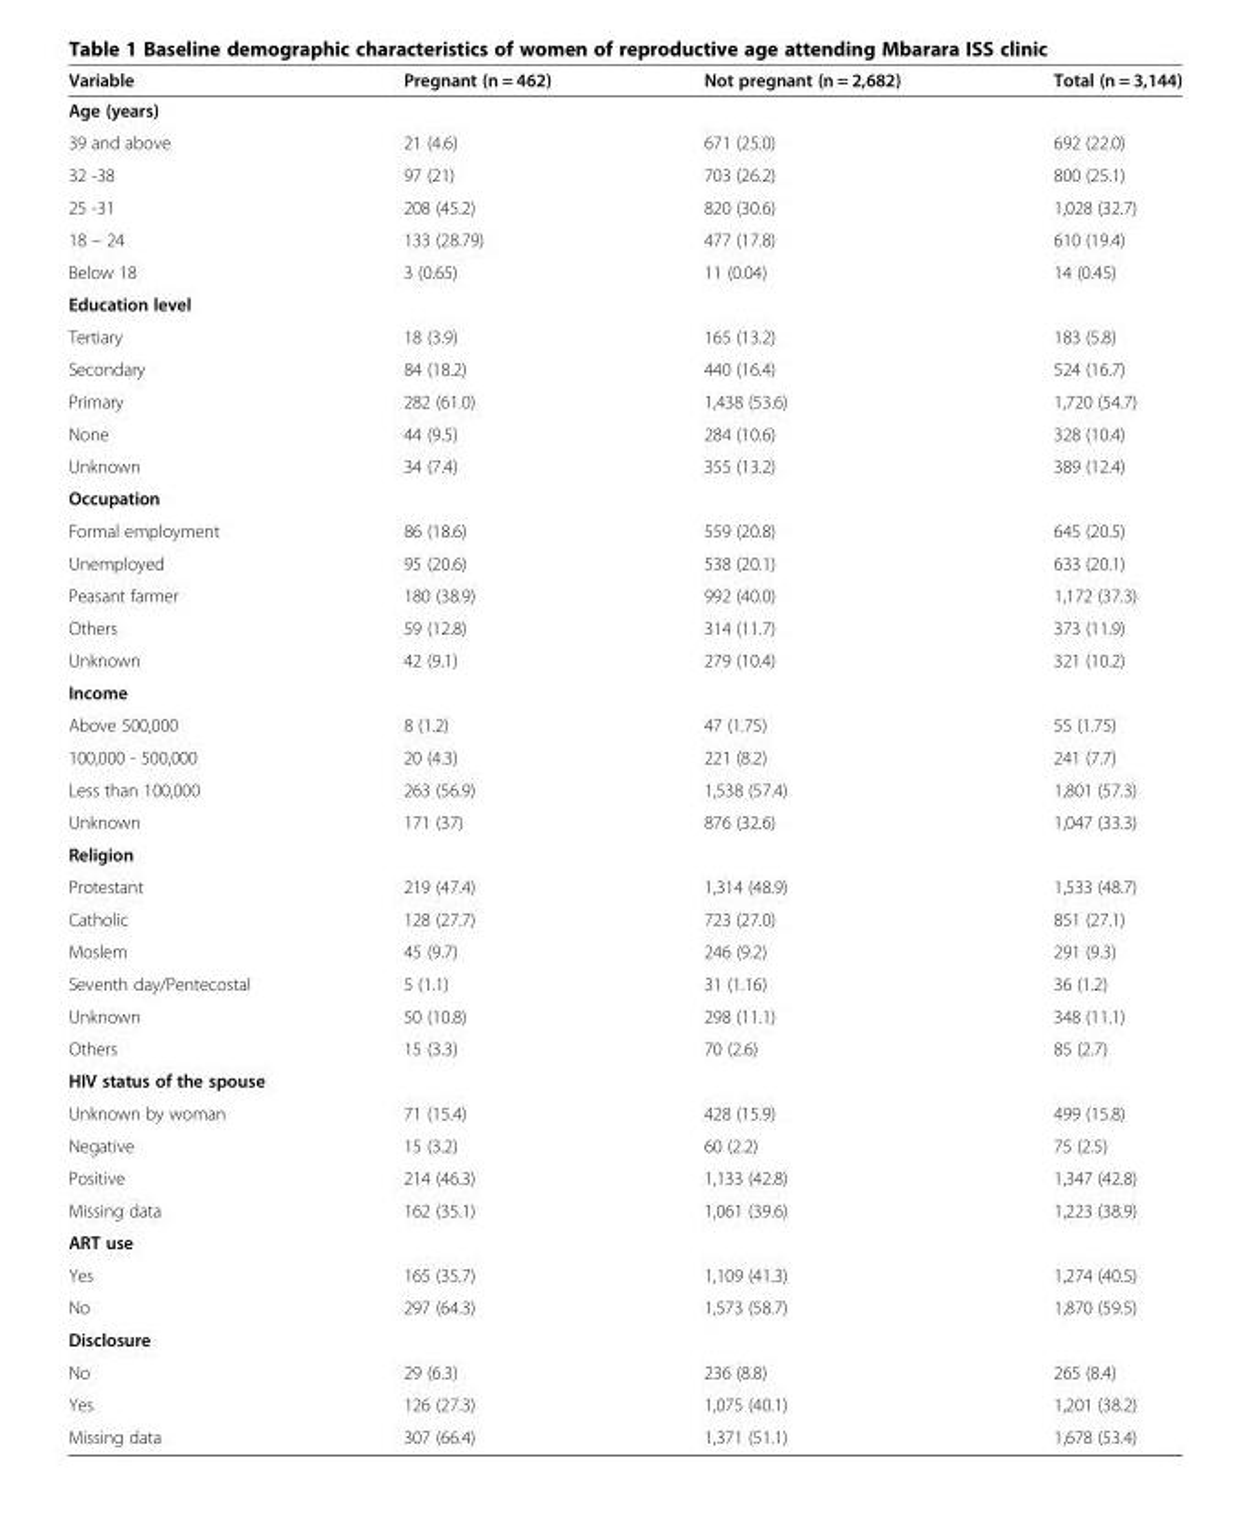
<table><thead><tr><td>Variable</td><td>Pregnant (n = 462)</td><td>Not pregnant (n = 2,682)</td><td>Total (n = 3,144)</td></tr></thead><tbody><tr><td colspan="4">Age (years)</td></tr><tr><td>39 and above</td><td>21 (4.6)</td><td>671 (25.0)</td><td>692 (22.0)</td></tr><tr><td>32 -38</td><td>97 (21)</td><td>703 (26.2)</td><td>800 (25.1)</td></tr><tr><td>25 -31</td><td>208 (45.2)</td><td>820 (30.6)</td><td>1,028 (32.7)</td></tr><tr><td>18 – 24</td><td>133 (28.79)</td><td>477 (17.8)</td><td>610 (19.4)</td></tr><tr><td>Below 18</td><td>3 (0.65)</td><td>11 (0.04)</td><td>14 (0.45)</td></tr><tr><td colspan="4">Education level</td></tr><tr><td>Tertiary</td><td>18 (3.9)</td><td>165 (13.2)</td><td>183 (5.8)</td></tr><tr><td>Secondary</td><td>84 (18.2)</td><td>440 (16.4)</td><td>524 (16.7)</td></tr><tr><td>Primary</td><td>282 (61.0)</td><td>1,438 (53.6)</td><td>1,720 (54.7)</td></tr><tr><td>None</td><td>44 (9.5)</td><td>284 (10.6)</td><td>328 (10.4)</td></tr><tr><td>Unknown</td><td>34 (7.4)</td><td>355 (13.2)</td><td>389 (12.4)</td></tr><tr><td colspan="4">Occupation</td></tr><tr><td>Formal employment</td><td>86 (18.6)</td><td>559 (20.8)</td><td>645 (20.5)</td></tr><tr><td>Unemployed</td><td>95 (20.6)</td><td>538 (20.1)</td><td>633 (20.1)</td></tr><tr><td>Peasant farmer</td><td>180 (38.9)</td><td>992 (40.0)</td><td>1,172 (37.3)</td></tr><tr><td>Others</td><td>59 (12.8)</td><td>314 (11.7)</td><td>373 (11.9)</td></tr><tr><td>Unknown</td><td>42 (9.1)</td><td>279 (10.4)</td><td>321 (10.2)</td></tr><tr><td colspan="4">Income</td></tr><tr><td>Above 500,000</td><td>8 (1.2)</td><td>47 (1.75)</td><td>55 (1.75)</td></tr><tr><td>100,000 - 500,000</td><td>20 (4.3)</td><td>221 (8.2)</td><td>241 (7.7)</td></tr><tr><td>Less than 100,000</td><td>263 (56.9)</td><td>1,538 (57.4)</td><td>1,801 (57.3)</td></tr><tr><td>Unknown</td><td>171 (37)</td><td>876 (32.6)</td><td>1,047 (33.3)</td></tr><tr><td colspan="4">Religion</td></tr><tr><td>Protestant</td><td>219 (47.4)</td><td>1,314 (48.9)</td><td>1,533 (48.7)</td></tr><tr><td>Catholic</td><td>128 (27.7)</td><td>723 (27.0)</td><td>851 (27.1)</td></tr><tr><td>Moslem</td><td>45 (9.7)</td><td>246 (9.2)</td><td>291 (9.3)</td></tr><tr><td>Seventh day/Pentecostal</td><td>5 (1.1)</td><td>31 (1.16)</td><td>36 (1.2)</td></tr><tr><td>Unknown</td><td>50 (10.8)</td><td>298 (11.1)</td><td>348 (11.1)</td></tr><tr><td>Others</td><td>15 (3.3)</td><td>70 (2.6)</td><td>85 (2.7)</td></tr><tr><td colspan="4">HIV status of the spouse</td></tr><tr><td>Unknown by woman</td><td>71 (15.4)</td><td>428 (15.9)</td><td>499 (15.8)</td></tr><tr><td>Negative</td><td>15 (3.2)</td><td>60 (2.2)</td><td>75 (2.5)</td></tr><tr><td>Positive</td><td>214 (46.3)</td><td>1,133 (42.8)</td><td>1,347 (42.8)</td></tr><tr><td>Missing data</td><td>162 (35.1)</td><td>1,061 (39.6)</td><td>1,223 (38.9)</td></tr><tr><td colspan="4">ART use</td></tr><tr><td>Yes</td><td>165 (35.7)</td><td>1,109 (41.3)</td><td>1,274 (40.5)</td></tr><tr><td>No</td><td>297 (64.3)</td><td>1,573 (58.7)</td><td>1,870 (59.5)</td></tr><tr><td colspan="4">Disclosure</td></tr><tr><td>No</td><td>29 (6.3)</td><td>236 (8.8)</td><td>265 (8.4)</td></tr><tr><td>Yes</td><td>126 (27.3)</td><td>1,075 (40.1)</td><td>1,201 (38.2)</td></tr><tr><td>Missing data</td><td>307 (66.4)</td><td>1,371 (51.1)</td><td>1,678 (53.4)</td></tr></tbody></table>